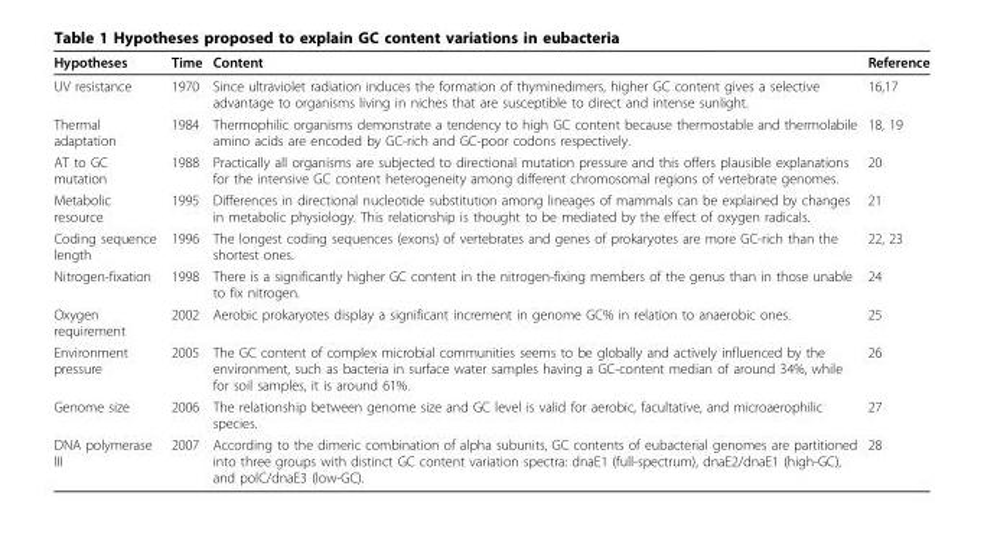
<table><thead><tr><td>Hypotheses</td><td>Time</td><td>Content</td><td>Reference</td></tr></thead><tbody><tr><td>UV resistance</td><td>1970</td><td>Since ultraviolet radiation induces the formation of thyminedimers, higher GC content gives a selective advantage to organisms living in niches that are susceptible to direct and intense sunlight.</td><td>16,17</td></tr><tr><td>Thermal adaptation</td><td>1984</td><td>Thermophilic organisms demonstrate a tendency to high GC content because thermostable and thermolabile amino acids are encoded by GC-rich and GC-poor codons respectively.</td><td>18, 19</td></tr><tr><td>AT to GC mutation</td><td>1988</td><td>Practically all organisms are subjected to directional mutation pressure and this offers plausible explanations for the intensive GC content heterogeneity among different chromosomal regions of vertebrate genomes.</td><td>20</td></tr><tr><td>Metabolic resource</td><td>1995</td><td>Differences in directional nucleotide substitution among lineages of mammals can be explained by changes in metabolic physiology. This relationship is thought to be mediated by the effect of oxygen radicals.</td><td>21</td></tr><tr><td>Coding sequence length</td><td>1996</td><td>The longest coding sequences (exons) of vertebrates and genes of prokaryotes are more GC-rich than the shortest ones.</td><td>22, 23</td></tr><tr><td>Nitrogen-fixation</td><td>1998</td><td>There is a significantly higher GC content in the nitrogen-fixing members of the genus than in those unable to fix nitrogen.</td><td>24</td></tr><tr><td>Oxygen requirement</td><td>2002</td><td>Aerobic prokaryotes display a significant increment in genome GC% in relation to anaerobic ones.</td><td>25</td></tr><tr><td>Environment pressure</td><td>2005</td><td>The GC content of complex microbial communities seems to be globally and actively influenced by the environment, such as bacteria in surface water samples having a GC-content median of around 34%, while for soil samples, it is around 61%.</td><td>26</td></tr><tr><td>Genome size</td><td>2006</td><td>The relationship between genome size and GC level is valid for aerobic, facultative, and microaerophilic species.</td><td>27</td></tr><tr><td>DNA polymerase III</td><td>2007</td><td>According to the dimeric combination of alpha subunits, GC contents of eubacterial genomes are partitioned into three groups with distinct GC content variation spectra: dnaE1 (full-spectrum), dnaE2/dnaE1 (high-GC), and polC/dnaE3 (low-GC).</td><td>28</td></tr></tbody></table>